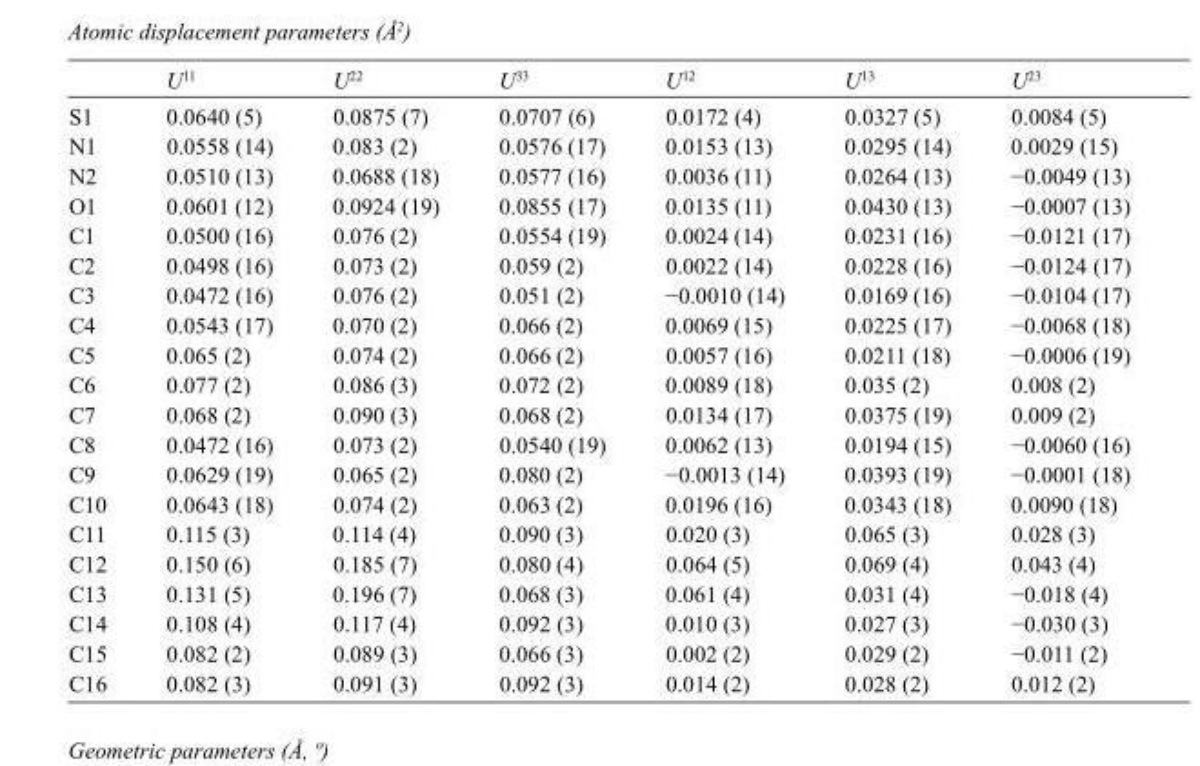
<table><thead><tr><td></td><td>U<sup>11</sup></td><td>U<sup>22</sup></td><td>U<sup>33</sup></td><td>U<sup>12</sup></td><td>U<sup>13</sup></td><td>U<sup>23</sup></td></tr></thead><tbody><tr><td>S1</td><td>0.0640 (5)</td><td>0.0875 (7)</td><td>0.0707 (6)</td><td>0.0172 (4)</td><td>0.0327 (5)</td><td>0.0084 (5)</td></tr><tr><td>N1</td><td>0.0558 (14)</td><td>0.083 (2)</td><td>0.0576 (17)</td><td>0.0153 (13)</td><td>0.0295 (14)</td><td>0.0029 (15)</td></tr><tr><td>N2</td><td>0.0510 (13)</td><td>0.0688 (18)</td><td>0.0577 (16)</td><td>0.0036 (11)</td><td>0.0264 (13)</td><td>−0.0049 (13)</td></tr><tr><td>O1</td><td>0.0601 (12)</td><td>0.0924 (19)</td><td>0.0855 (17)</td><td>0.0135 (11)</td><td>0.0430 (13)</td><td>−0.0007 (13)</td></tr><tr><td>C1</td><td>0.0500 (16)</td><td>0.076 (2)</td><td>0.0554 (19)</td><td>0.0024 (14)</td><td>0.0231 (16)</td><td>−0.0121 (17)</td></tr><tr><td>C2</td><td>0.0498 (16)</td><td>0.073 (2)</td><td>0.059 (2)</td><td>0.0022 (14)</td><td>0.0228 (16)</td><td>−0.0124 (17)</td></tr><tr><td>C3</td><td>0.0472 (16)</td><td>0.076 (2)</td><td>0.051 (2)</td><td>−0.0010 (14)</td><td>0.0169 (16)</td><td>−0.0104 (17)</td></tr><tr><td>C4</td><td>0.0543 (17)</td><td>0.070 (2)</td><td>0.066 (2)</td><td>0.0069 (15)</td><td>0.0225 (17)</td><td>−0.0068 (18)</td></tr><tr><td>C5</td><td>0.065 (2)</td><td>0.074 (2)</td><td>0.066 (2)</td><td>0.0057 (16)</td><td>0.0211 (18)</td><td>−0.0006 (19)</td></tr><tr><td>C6</td><td>0.077 (2)</td><td>0.086 (3)</td><td>0.072 (2)</td><td>0.0089 (18)</td><td>0.035 (2)</td><td>0.008 (2)</td></tr><tr><td>C7</td><td>0.068 (2)</td><td>0.090 (3)</td><td>0.068 (2)</td><td>0.0134 (17)</td><td>0.0375 (19)</td><td>0.009 (2)</td></tr><tr><td>C8</td><td>0.0472 (16)</td><td>0.073 (2)</td><td>0.0540 (19)</td><td>0.0062 (13)</td><td>0.0194 (15)</td><td>−0.0060 (16)</td></tr><tr><td>C9</td><td>0.0629 (19)</td><td>0.065 (2)</td><td>0.080 (2)</td><td>−0.0013 (14)</td><td>0.0393 (19)</td><td>−0.0001 (18)</td></tr><tr><td>C10</td><td>0.0643 (18)</td><td>0.074 (2)</td><td>0.063 (2)</td><td>0.0196 (16)</td><td>0.0343 (18)</td><td>0.0090 (18)</td></tr><tr><td>C11</td><td>0.115 (3)</td><td>0.114 (4)</td><td>0.090 (3)</td><td>0.020 (3)</td><td>0.065 (3)</td><td>0.028 (3)</td></tr><tr><td>C12</td><td>0.150 (6)</td><td>0.185 (7)</td><td>0.080 (4)</td><td>0.064 (5)</td><td>0.069 (4)</td><td>0.043 (4)</td></tr><tr><td>C13</td><td>0.131 (5)</td><td>0.196 (7)</td><td>0.068 (3)</td><td>0.061 (4)</td><td>0.031 (4)</td><td>−0.018 (4)</td></tr><tr><td>C14</td><td>0.108 (4)</td><td>0.117 (4)</td><td>0.092 (3)</td><td>0.010 (3)</td><td>0.027 (3)</td><td>−0.030 (3)</td></tr><tr><td>C15</td><td>0.082 (2)</td><td>0.089 (3)</td><td>0.066 (3)</td><td>0.002 (2)</td><td>0.029 (2)</td><td>−0.011 (2)</td></tr><tr><td>C16</td><td>0.082 (3)</td><td>0.091 (3)</td><td>0.092 (3)</td><td>0.014 (2)</td><td>0.028 (2)</td><td>0.012 (2)</td></tr></tbody></table>